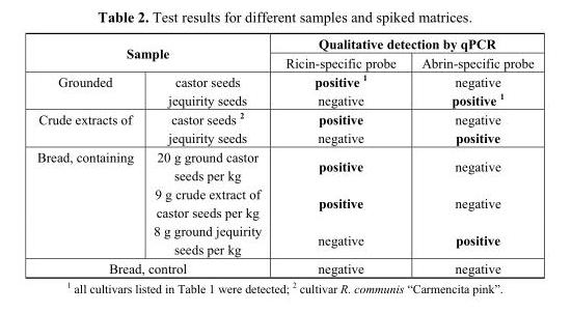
<table><tbody><tr><td rowspan="2" colspan="2">Sample</td><td colspan="2">Qualitative detection by qPCR</td></tr><tr><td>Ricin-specific probe</td><td>Abrin-specific probe</td></tr><tr><td rowspan="2">Grounded</td><td>castor seeds</td><td>positive <sup>1</sup></td><td>negative</td></tr><tr><td>jequirity seeds</td><td>negative</td><td>positive <sup>1</sup></td></tr><tr><td rowspan="2">Crude extracts of</td><td>castor seeds <sup>2</sup></td><td>positive</td><td>negative</td></tr><tr><td>jequirity seeds</td><td>negative</td><td>positive</td></tr><tr><td rowspan="3">Bread, containing</td><td>20 g ground castor seeds per kg</td><td>positive</td><td>negative</td></tr><tr><td>9 g crude extract of castor seeds per kg</td><td>positive</td><td>negative</td></tr><tr><td>8 g ground jequirity seeds per kg</td><td>negative</td><td>positive</td></tr><tr><td colspan="2">Bread, control</td><td>negative</td><td>negative</td></tr></tbody></table>